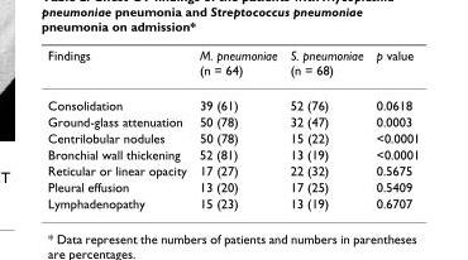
<table><thead><tr><td>Findings</td><td>M. pneumoniae (n = 64)</td><td>S. pneumoniae (n = 68)</td><td>p value</td></tr></thead><tbody><tr><td>Consolidation</td><td>39 (61)</td><td>52 (76)</td><td>0.0618</td></tr><tr><td>Ground-glass attenuation</td><td>50 (78)</td><td>32 (47)</td><td>0.0003</td></tr><tr><td>Centrilobular nodules</td><td>50 (78)</td><td>15 (22)</td><td>&lt;0.0001</td></tr><tr><td>Bronchial wall thickening</td><td>52 (81)</td><td>13 (19)</td><td>&lt;0.0001</td></tr><tr><td>Reticular or linear opacity</td><td>17 (27)</td><td>22 (32)</td><td>0.5675</td></tr><tr><td>Pleural effusion</td><td>13 (20)</td><td>17 (25)</td><td>0.5409</td></tr><tr><td>Lymphadenopathy</td><td>15 (23)</td><td>13 (19)</td><td>0.6707</td></tr></tbody></table>